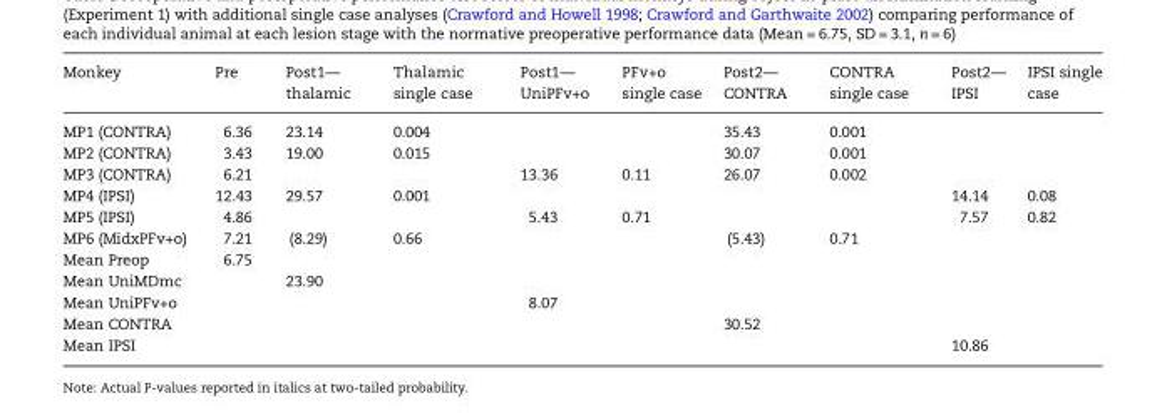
<table><thead><tr><td>Monkey</td><td>Pre</td><td>Post1— thalamic</td><td>Thalamic single case</td><td>Post1— UniPFv+o</td><td>PFv+o single case</td><td>Post2— CONTRA</td><td>CONTRA single case</td><td>Post2— IPSI</td><td>IPSI single case</td></tr></thead><tbody><tr><td>MP1 (CONTRA)</td><td>6.36</td><td>23.14</td><td>0.004</td><td></td><td></td><td>35.43</td><td>0.001</td><td></td><td></td></tr><tr><td>MP2 (CONTRA)</td><td>3.43</td><td>19.00</td><td>0.015</td><td></td><td></td><td>30.07</td><td>0.001</td><td></td><td></td></tr><tr><td>MP3 (CONTRA)</td><td>6.21</td><td></td><td></td><td>13.36</td><td>0.11</td><td>26.07</td><td>0.002</td><td></td><td></td></tr><tr><td>MP4 (IPSI)</td><td>12.43</td><td>29.57</td><td>0.001</td><td></td><td></td><td></td><td></td><td>14.14</td><td>0.08</td></tr><tr><td>MP5 (IPSI)</td><td>4.86</td><td></td><td></td><td>5.43</td><td>0.71</td><td></td><td></td><td>7.57</td><td>0.82</td></tr><tr><td>MP6 (MidxPFv+o)</td><td>7.21</td><td>(8.29)</td><td>0.66</td><td></td><td></td><td>(5.43)</td><td>0.71</td><td></td><td></td></tr><tr><td>Mean Preop</td><td>6.75</td><td></td><td></td><td></td><td></td><td></td><td></td><td></td><td></td></tr><tr><td>Mean UniMDmc</td><td></td><td>23.90</td><td></td><td></td><td></td><td></td><td></td><td></td><td></td></tr><tr><td>Mean UniPFv+o</td><td></td><td></td><td></td><td>8.07</td><td></td><td></td><td></td><td></td><td></td></tr><tr><td>Mean CONTRA</td><td></td><td></td><td></td><td></td><td></td><td>30.52</td><td></td><td></td><td></td></tr><tr><td>Mean IPSI</td><td></td><td></td><td></td><td></td><td></td><td></td><td></td><td>10.86</td><td></td></tr></tbody></table>